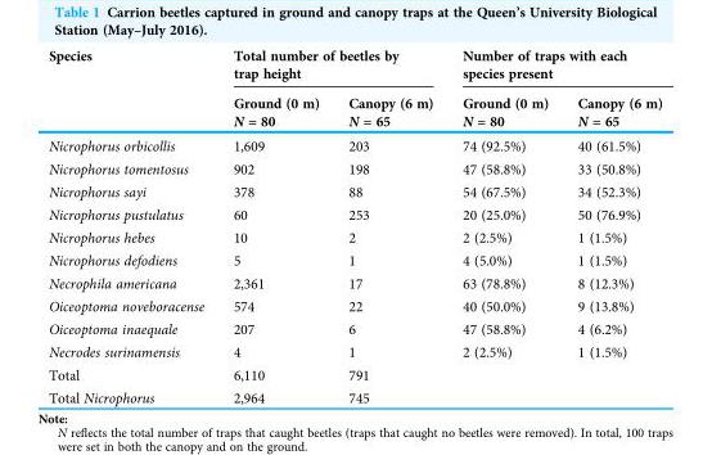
<table><thead><tr><td rowspan="2">Species</td><td colspan="2">Total number of beetles by trap height</td><td colspan="2">Number of traps with each species present</td></tr><tr><td>Ground (0 m) N = 80</td><td>Canopy (6 m) N = 65</td><td>Ground (0 m) N = 80</td><td>Canopy (6 m) N = 65</td></tr></thead><tbody><tr><td>Nicrophorus orbicollis</td><td>1,609</td><td>203</td><td>74 (92.5%)</td><td>40 (61.5%)</td></tr><tr><td>Nicrophorus tomentosus</td><td>902</td><td>198</td><td>47 (58.8%)</td><td>33 (50.8%)</td></tr><tr><td>Nicrophorus sayi</td><td>378</td><td>88</td><td>54 (67.5%)</td><td>34 (52.3%)</td></tr><tr><td>Nicrophorus pustulatus</td><td>60</td><td>253</td><td>20 (25.0%)</td><td>50 (76.9%)</td></tr><tr><td>Nicrophorus hebes</td><td>10</td><td>2</td><td>2 (2.5%)</td><td>1 (1.5%)</td></tr><tr><td>Nicrophorus defodiens</td><td>5</td><td>1</td><td>4 (5.0%)</td><td>1 (1.5%)</td></tr><tr><td>Necrophila americana</td><td>2,361</td><td>17</td><td>63 (78.8%)</td><td>8 (12.3%)</td></tr><tr><td>Oiceoptoma noveboracense</td><td>574</td><td>22</td><td>40 (50.0%)</td><td>9 (13.8%)</td></tr><tr><td>Oiceoptoma inaequale</td><td>207</td><td>6</td><td>47 (58.8%)</td><td>4 (6.2%)</td></tr><tr><td>Necrodes surinamensis</td><td>4</td><td>1</td><td>2 (2.5%)</td><td>1 (1.5%)</td></tr><tr><td>Total</td><td>6,110</td><td>791</td><td colspan="2"></td></tr><tr><td>Total Nicrophorus</td><td>2,964</td><td>745</td><td colspan="2"></td></tr></tbody></table>